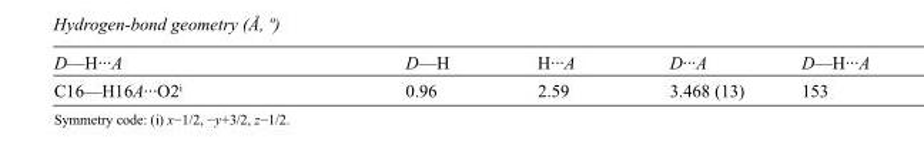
<table><tbody><tr><td>D—H···A</td><td>D—H</td><td>H···A</td><td>D···A</td><td>D—H···A</td></tr><tr><td>C16—H16A···O2<sup>i</sup></td><td>0.96</td><td>2.59</td><td>3.468 (13)</td><td>153</td></tr></tbody></table>